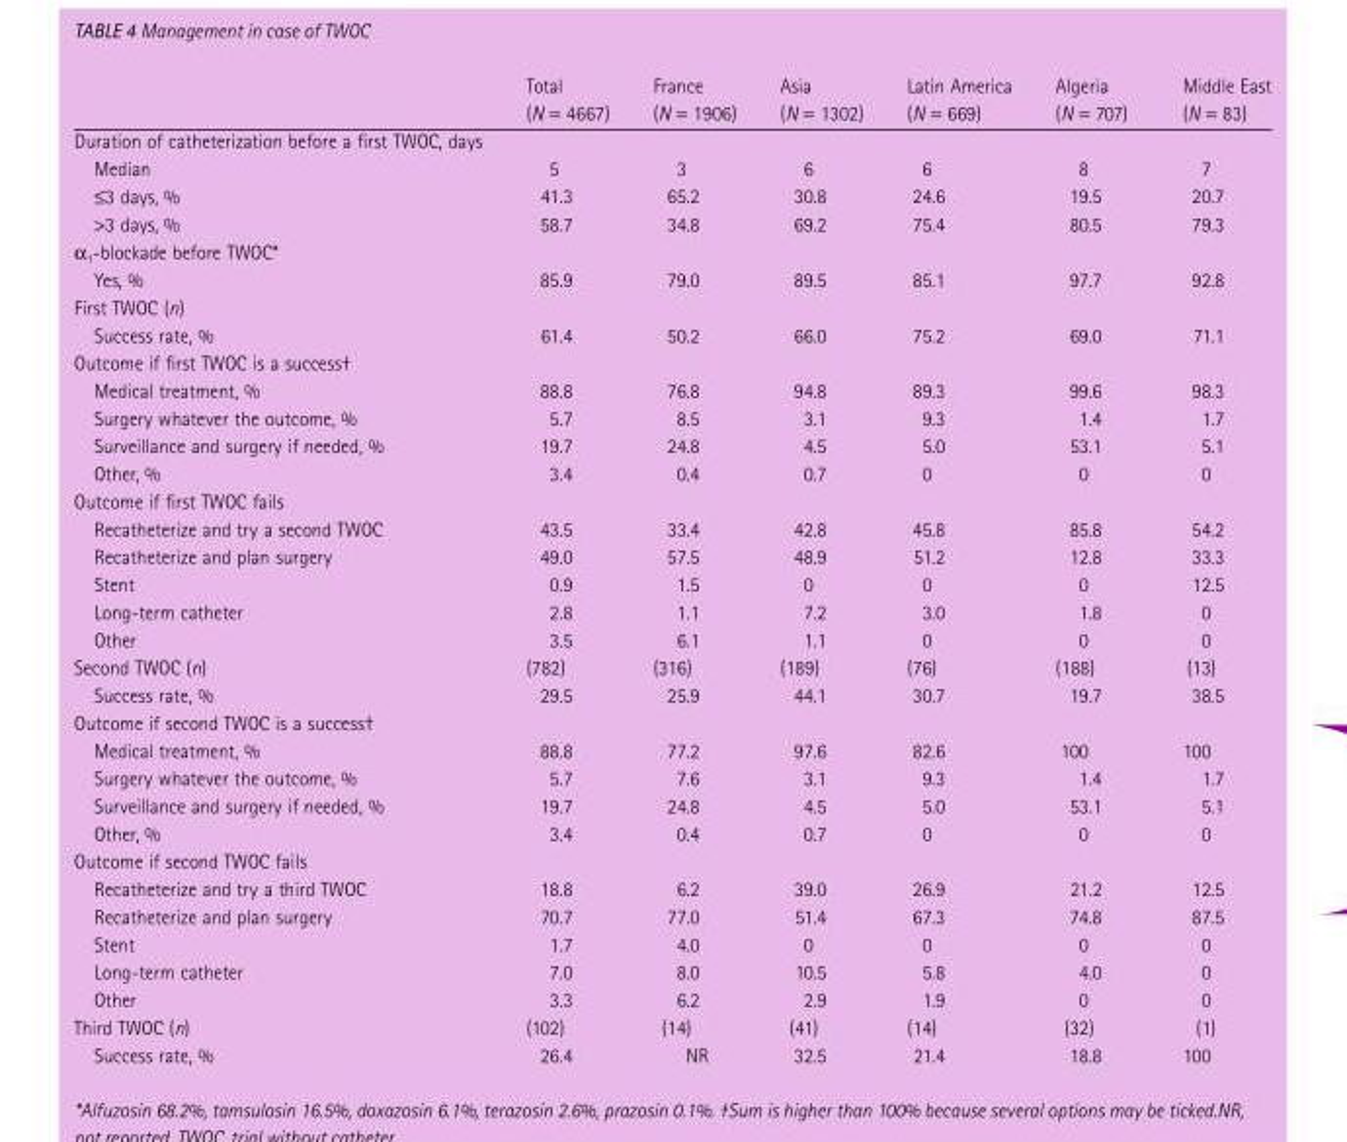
<table><thead><tr><td></td><td>Total ( N = 4667)</td><td>France ( N = 1906)</td><td>Asia ( N = 1302)</td><td>Latin America ( N = 669)</td><td>Algeria ( N = 707)</td><td>Middle East ( N = 83)</td></tr></thead><tbody><tr><td colspan="7">Duration of catheterization before a fi rst TWOC, days</td></tr><tr><td>Median</td><td>5</td><td>3</td><td>6</td><td>6</td><td>8</td><td>7</td></tr><tr><td>≤ 3 days, %</td><td>41.3</td><td>65.2</td><td>30.8</td><td>24.6</td><td>19.5</td><td>20.7</td></tr><tr><td>&gt; 3 days, %</td><td>58.7</td><td>34.8</td><td>69.2</td><td>75.4</td><td>80.5</td><td>79.3</td></tr><tr><td colspan="7">α <sub>1</sub> -blockade before TWOC *</td></tr><tr><td>Yes, %</td><td>85.9</td><td>79.0</td><td>89.5</td><td>85.1</td><td>97.7</td><td>92.8</td></tr><tr><td colspan="7">First TWOC ( n )</td></tr><tr><td>Success rate, %</td><td>61.4</td><td>50.2</td><td>66.0</td><td>75.2</td><td>69.0</td><td>71.1</td></tr><tr><td colspan="7">Outcome if fi rst TWOC is a success †</td></tr><tr><td>Medical treatment, %</td><td>88.8</td><td>76.8</td><td>94.8</td><td>89.3</td><td>99.6</td><td>98.3</td></tr><tr><td>Surgery whatever the outcome, %</td><td>5.7</td><td>8.5</td><td>3.1</td><td>9.3</td><td>1.4</td><td>1.7</td></tr><tr><td>Surveillance and surgery if needed, %</td><td>19.7</td><td>24.8</td><td>4.5</td><td>5.0</td><td>53.1</td><td>5.1</td></tr><tr><td>Other, %</td><td>3.4</td><td>0.4</td><td>0.7</td><td>0</td><td>0</td><td>0</td></tr><tr><td colspan="7">Outcome if fi rst TWOC fails</td></tr><tr><td>Recatheterize and try a second TWOC</td><td>43.5</td><td>33.4</td><td>42.8</td><td>45.8</td><td>85.8</td><td>54.2</td></tr><tr><td>Recatheterize and plan surgery</td><td>49.0</td><td>57.5</td><td>48.9</td><td>51.2</td><td>12.8</td><td>33.3</td></tr><tr><td>Stent</td><td>0.9</td><td>1.5</td><td>0</td><td>0</td><td>0</td><td>12.5</td></tr><tr><td>Long-term catheter</td><td>2.8</td><td>1.1</td><td>7.2</td><td>3.0</td><td>1.8</td><td>0</td></tr><tr><td>Other</td><td>3.5</td><td>6.1</td><td>1.1</td><td>0</td><td>0</td><td>0</td></tr><tr><td>Second TWOC ( n )</td><td>(782)</td><td>(316)</td><td>(189)</td><td>(76)</td><td>(188)</td><td>(13)</td></tr><tr><td>Success rate, %</td><td>29.5</td><td>25.9</td><td>44.1</td><td>30.7</td><td>19.7</td><td>38.5</td></tr><tr><td colspan="7">Outcome if second TWOC is a success †</td></tr><tr><td>Medical treatment, %</td><td>88.8</td><td>77.2</td><td>97.6</td><td>82.6</td><td>100</td><td>100</td></tr><tr><td>Surgery whatever the outcome, %</td><td>5.7</td><td>7.6</td><td>3.1</td><td>9.3</td><td>1.4</td><td>1.7</td></tr><tr><td>Surveillance and surgery if needed, %</td><td>19.7</td><td>24.8</td><td>4.5</td><td>5.0</td><td>53.1</td><td>5.1</td></tr><tr><td>Other, %</td><td>3.4</td><td>0.4</td><td>0.7</td><td>0</td><td>0</td><td>0</td></tr><tr><td colspan="7">Outcome if second TWOC fails</td></tr><tr><td>Recatheterize and try a third TWOC</td><td>18.8</td><td>6.2</td><td>39.0</td><td>26.9</td><td>21.2</td><td>12.5</td></tr><tr><td>Recatheterize and plan surgery</td><td>70.7</td><td>77.0</td><td>51.4</td><td>67.3</td><td>74.8</td><td>87.5</td></tr><tr><td>Stent</td><td>1.7</td><td>4.0</td><td>0</td><td>0</td><td>0</td><td>0</td></tr><tr><td>Long-term catheter</td><td>7.0</td><td>8.0</td><td>10.5</td><td>5.8</td><td>4.0</td><td>0</td></tr><tr><td>Other</td><td>3.3</td><td>6.2</td><td>2.9</td><td>1.9</td><td>0</td><td>0</td></tr><tr><td>Third TWOC ( n )</td><td>(102)</td><td>(14)</td><td>(41)</td><td>(14)</td><td>(32)</td><td>(1)</td></tr><tr><td>Success rate, %</td><td>26.4</td><td>NR</td><td>32.5</td><td>21.4</td><td>18.8</td><td>100</td></tr></tbody></table>